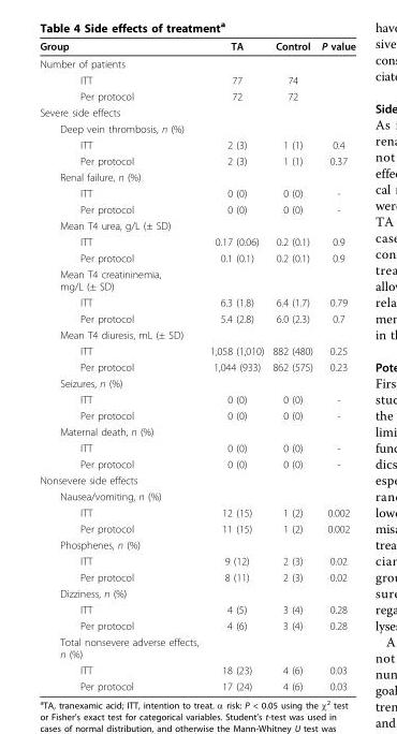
<table><thead><tr><td>Group</td><td>TA</td><td>Control</td><td>P value</td></tr></thead><tbody><tr><td colspan="4">Number of patients</td></tr><tr><td>ITT</td><td>77</td><td>74</td><td></td></tr><tr><td>Per protocol</td><td>72</td><td>72</td><td></td></tr><tr><td colspan="4">Severe side effects</td></tr><tr><td colspan="4">Deep vein thrombosis, n (%)</td></tr><tr><td>ITT</td><td>2 (3)</td><td>1 (1)</td><td>0.4</td></tr><tr><td>Per protocol</td><td>2 (3)</td><td>1 (1)</td><td>0.37</td></tr><tr><td colspan="4">Renal failure, n (%)</td></tr><tr><td>ITT</td><td>0 (0)</td><td>0 (0)</td><td>-</td></tr><tr><td>Per protocol</td><td>0 (0)</td><td>0 (0)</td><td>-</td></tr><tr><td colspan="4">Mean T4 urea, g/L (± SD)</td></tr><tr><td>ITT</td><td>0.17 (0.06)</td><td>0.2 (0.1)</td><td>0.9</td></tr><tr><td>Per protocol</td><td>0.1 (0.1)</td><td>0.2 (0.1)</td><td>0.9</td></tr><tr><td colspan="4">Mean T4 creatininemia, mg/L (± SD)</td></tr><tr><td>ITT</td><td>6.3 (1.8)</td><td>6.4 (1.7)</td><td>0.79</td></tr><tr><td>Per protocol</td><td>5.4 (2.8)</td><td>6.0 (2.3)</td><td>0.7</td></tr><tr><td colspan="4">Mean T4 diuresis, mL (± SD)</td></tr><tr><td>ITT</td><td>1,058 (1,010)</td><td>882 (480)</td><td>0.25</td></tr><tr><td>Per protocol</td><td>1,044 (933)</td><td>862 (575)</td><td>0.23</td></tr><tr><td colspan="4">Seizures, n (%)</td></tr><tr><td>ITT</td><td>0 (0)</td><td>0 (0)</td><td>-</td></tr><tr><td>Per protocol</td><td>0 (0)</td><td>0 (0)</td><td>-</td></tr><tr><td colspan="4">Maternal death, n (%)</td></tr><tr><td>ITT</td><td>0 (0)</td><td>0 (0)</td><td>-</td></tr><tr><td>Per protocol</td><td>0 (0)</td><td>0 (0)</td><td>-</td></tr><tr><td colspan="4">Nonsevere side effects</td></tr><tr><td colspan="4">Nausea/vomiting, n (%)</td></tr><tr><td>ITT</td><td>12 (15)</td><td>1 (2)</td><td>0.002</td></tr><tr><td>Per protocol</td><td>11 (15)</td><td>1 (2)</td><td>0.002</td></tr><tr><td colspan="4">Phosphenes, n (%)</td></tr><tr><td>ITT</td><td>9 (12)</td><td>2 (3)</td><td>0.02</td></tr><tr><td>Per protocol</td><td>8 (11)</td><td>2 (3)</td><td>0.02</td></tr><tr><td colspan="4">Dizziness, n (%)</td></tr><tr><td>ITT</td><td>4 (5)</td><td>3 (4)</td><td>0.28</td></tr><tr><td>Per protocol</td><td>4 (6)</td><td>3 (4)</td><td>0.28</td></tr><tr><td colspan="4">Total nonsevere adverse effects, n (%)</td></tr><tr><td>ITT</td><td>18 (23)</td><td>4 (6)</td><td>0.03</td></tr><tr><td>Per protocol</td><td>17 (24)</td><td>4 (6)</td><td>0.03</td></tr></tbody></table>